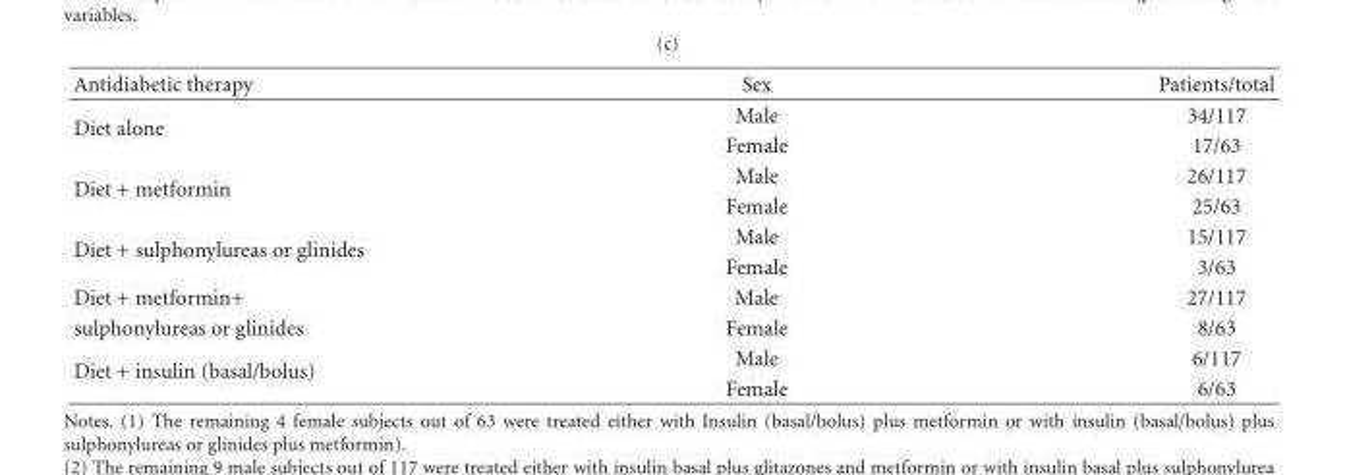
<table><thead><tr><td>Antidiabetic therapy</td><td>Sex</td><td>Patients/total</td></tr></thead><tbody><tr><td rowspan="2">Diet alone</td><td>Male</td><td>34/117</td></tr><tr><td>Female</td><td>17/63</td></tr><tr><td rowspan="2">Diet + metformin</td><td>Male</td><td>26/117</td></tr><tr><td>Female</td><td>25/63</td></tr><tr><td rowspan="2">Diet + sulphonylureas or glinides</td><td>Male</td><td>15/117</td></tr><tr><td>Female</td><td>3/63</td></tr><tr><td>Diet + metformin+</td><td>Male</td><td>27/117</td></tr><tr><td>sulphonylureas or glinides</td><td>Female</td><td>8/63</td></tr><tr><td rowspan="2">Diet + insulin (basal/bolus)</td><td>Male</td><td>6/117</td></tr><tr><td>Female</td><td>6/63</td></tr></tbody></table>